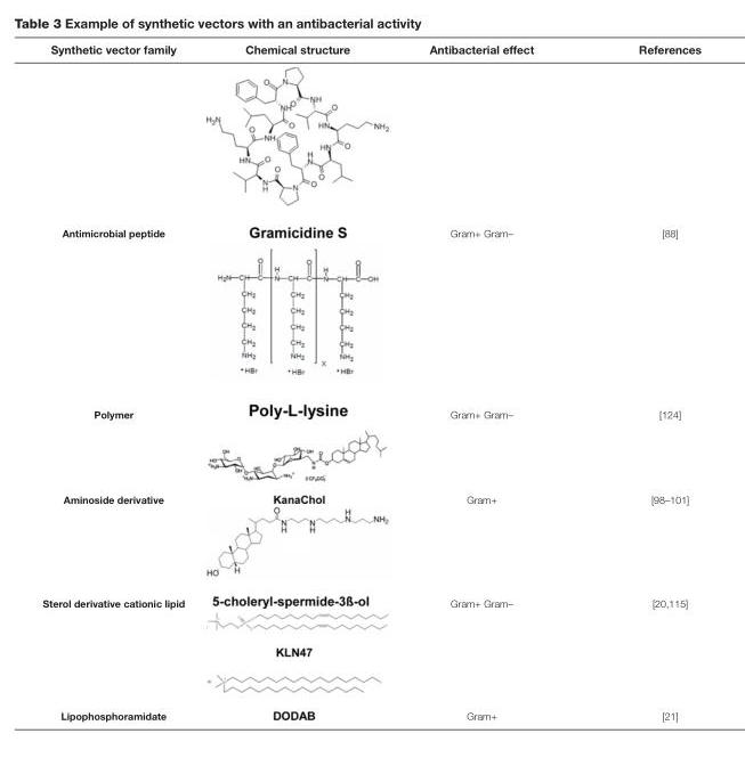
<table><thead><tr><td>Synthetic vector family</td><td>Chemical structure</td><td>Antibacterial effect</td><td>References</td></tr></thead><tbody><tr><td>Antimicrobial peptide</td><td></td><td>Gram+ Gram–</td><td>[88]</td></tr><tr><td>Polymer</td><td></td><td>Gram+ Gram–</td><td>[124]</td></tr><tr><td>Aminoside derivative</td><td></td><td>Gram+</td><td>[98–101]</td></tr><tr><td>Sterol derivative cationic lipid</td><td></td><td>Gram+ Gram–</td><td>[20,115]</td></tr><tr><td>Lipophosphoramidate</td><td></td><td>Gram+</td><td>[21]</td></tr></tbody></table>